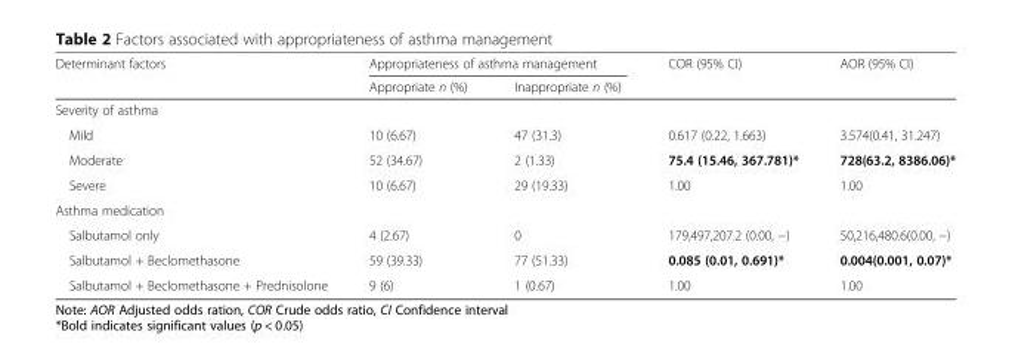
<table><thead><tr><td rowspan="2">Determinant factors</td><td colspan="2">Appropriateness of asthma management</td><td rowspan="2">COR (95% CI)</td><td rowspan="2">AOR (95% CI)</td></tr><tr><td>Appropriate n (%)</td><td>Inappropriate n (%)</td></tr></thead><tbody><tr><td colspan="5">Severity of asthma</td></tr><tr><td>Mild</td><td>10 (6.67)</td><td>47 (31.3)</td><td>0.617 (0.22, 1.663)</td><td>3.574(0.41, 31.247)</td></tr><tr><td>Moderate</td><td>52 (34.67)</td><td>2 (1.33)</td><td>75.4 (15.46, 367.781)*</td><td>728(63.2, 8386.06)*</td></tr><tr><td>Severe</td><td>10 (6.67)</td><td>29 (19.33)</td><td>1.00</td><td>1.00</td></tr><tr><td colspan="5">Asthma medication</td></tr><tr><td>Salbutamol only</td><td>4 (2.67)</td><td>0</td><td>179,497,207.2 (0.00, −)</td><td>50,216,480.6(0.00, −)</td></tr><tr><td>Salbutamol + Beclomethasone</td><td>59 (39.33)</td><td>77 (51.33)</td><td>0.085 (0.01, 0.691)*</td><td>0.004(0.001, 0.07)*</td></tr><tr><td>Salbutamol + Beclomethasone + Prednisolone</td><td>9 (6)</td><td>1 (0.67)</td><td>1.00</td><td>1.00</td></tr></tbody></table>